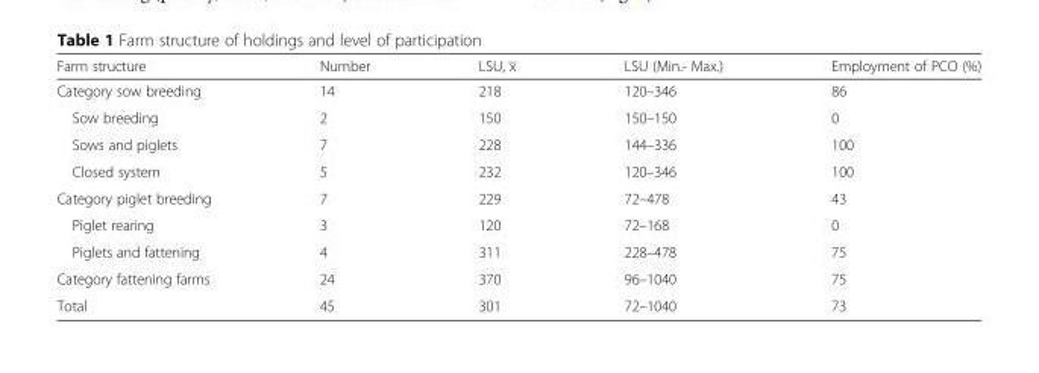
<table><thead><tr><td>Farm structure</td><td>Number</td><td>LSU, x̅</td><td>LSU (Min.- Max.)</td><td>Employment of PCO (%)</td></tr></thead><tbody><tr><td>Category sow breeding</td><td>14</td><td>218</td><td>120–346</td><td>86</td></tr><tr><td>Sow breeding</td><td>2</td><td>150</td><td>150–150</td><td>0</td></tr><tr><td>Sows and piglets</td><td>7</td><td>228</td><td>144–336</td><td>100</td></tr><tr><td>Closed system</td><td>5</td><td>232</td><td>120–346</td><td>100</td></tr><tr><td>Category piglet breeding</td><td>7</td><td>229</td><td>72–478</td><td>43</td></tr><tr><td>Piglet rearing</td><td>3</td><td>120</td><td>72–168</td><td>0</td></tr><tr><td>Piglets and fattening</td><td>4</td><td>311</td><td>228–478</td><td>75</td></tr><tr><td>Category fattening farms</td><td>24</td><td>370</td><td>96–1040</td><td>75</td></tr><tr><td>Total</td><td>45</td><td>301</td><td>72–1040</td><td>73</td></tr></tbody></table>